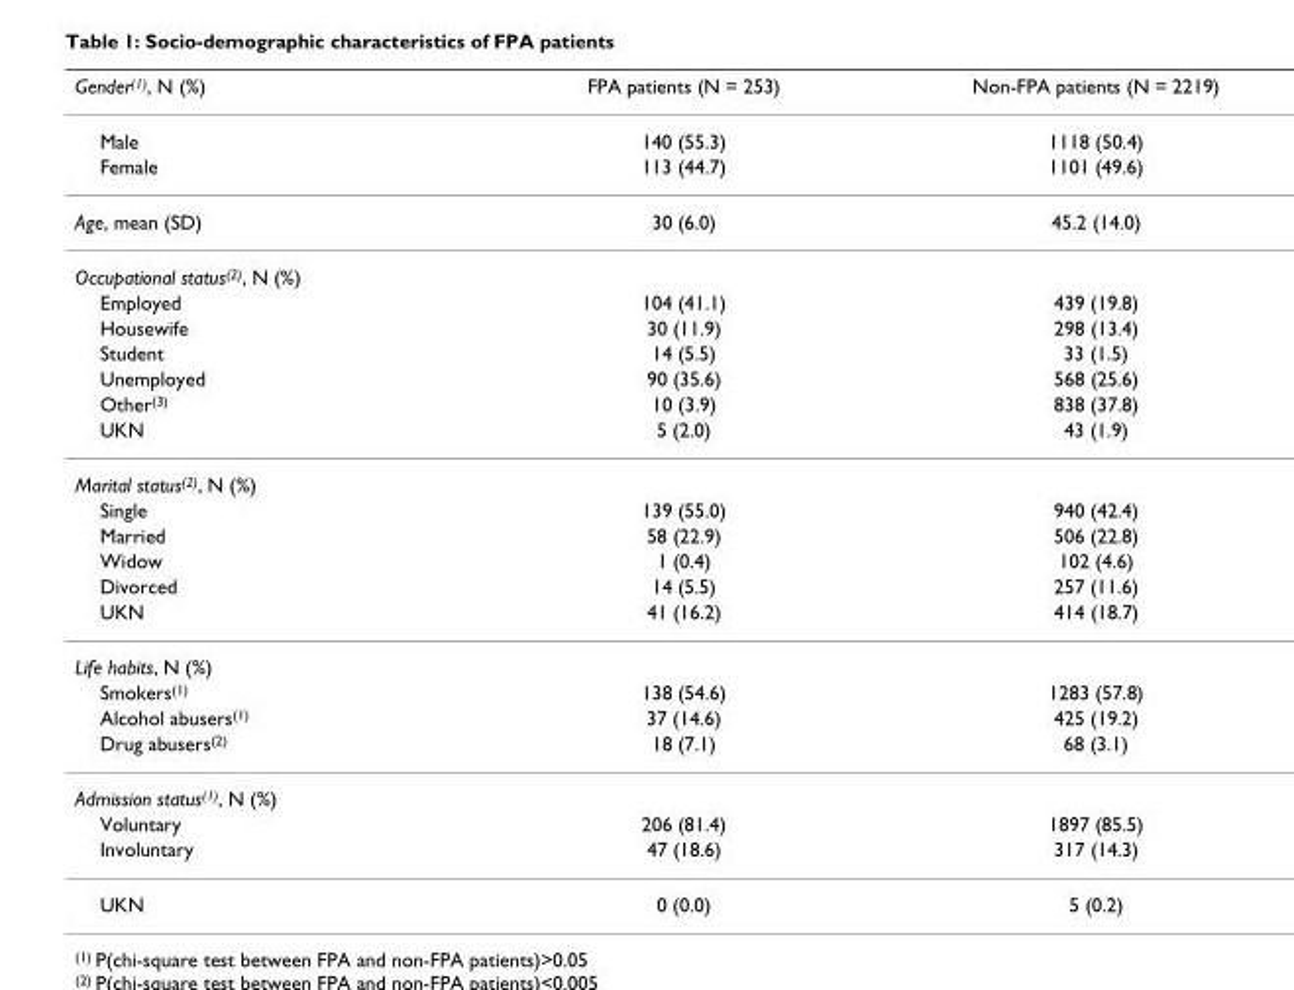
<table><thead><tr><td>Gender<sup>(1)</sup>, N (%)</td><td>FPA patients (N = 253)</td><td>Non-FPA patients (N = 2219)</td></tr></thead><tbody><tr><td>Male</td><td>140 (55.3)</td><td>1118 (50.4)</td></tr><tr><td>Female</td><td>113 (44.7)</td><td>1101 (49.6)</td></tr><tr><td>Age, mean (SD)</td><td>30 (6.0)</td><td>45.2 (14.0)</td></tr><tr><td colspan="3">Occupational status<sup>(2)</sup>, N (%)</td></tr><tr><td>Employed</td><td>104 (41.1)</td><td>439 (19.8)</td></tr><tr><td>Housewife</td><td>30 (11.9)</td><td>298 (13.4)</td></tr><tr><td>Student</td><td>14 (5.5)</td><td>33 (1.5)</td></tr><tr><td>Unemployed</td><td>90 (35.6)</td><td>568 (25.6)</td></tr><tr><td>Other<sup>(3)</sup></td><td>10 (3.9)</td><td>838 (37.8)</td></tr><tr><td>UKN</td><td>5 (2.0)</td><td>43 (1.9)</td></tr><tr><td colspan="3">Marital status<sup>(2)</sup>, N (%)</td></tr><tr><td>Single</td><td>139 (55.0)</td><td>940 (42.4)</td></tr><tr><td>Married</td><td>58 (22.9)</td><td>506 (22.8)</td></tr><tr><td>Widow</td><td>1 (0.4)</td><td>102 (4.6)</td></tr><tr><td>Divorced</td><td>14 (5.5)</td><td>257 (11.6)</td></tr><tr><td>UKN</td><td>41 (16.2)</td><td>414 (18.7)</td></tr><tr><td colspan="3">Life habits, N (%)</td></tr><tr><td>Smokers<sup>(1)</sup></td><td>138 (54.6)</td><td>1283 (57.8)</td></tr><tr><td>Alcohol abusers<sup>(1)</sup></td><td>37 (14.6)</td><td>425 (19.2)</td></tr><tr><td>Drug abusers<sup>(2)</sup></td><td>18 (7.1)</td><td>68 (3.1)</td></tr><tr><td colspan="3">Admission status<sup>(1)</sup>, N (%)</td></tr><tr><td>Voluntary</td><td>206 (81.4)</td><td>1897 (85.5)</td></tr><tr><td>Involuntary</td><td>47 (18.6)</td><td>317 (14.3)</td></tr><tr><td>UKN</td><td>0 (0.0)</td><td>5 (0.2)</td></tr></tbody></table>